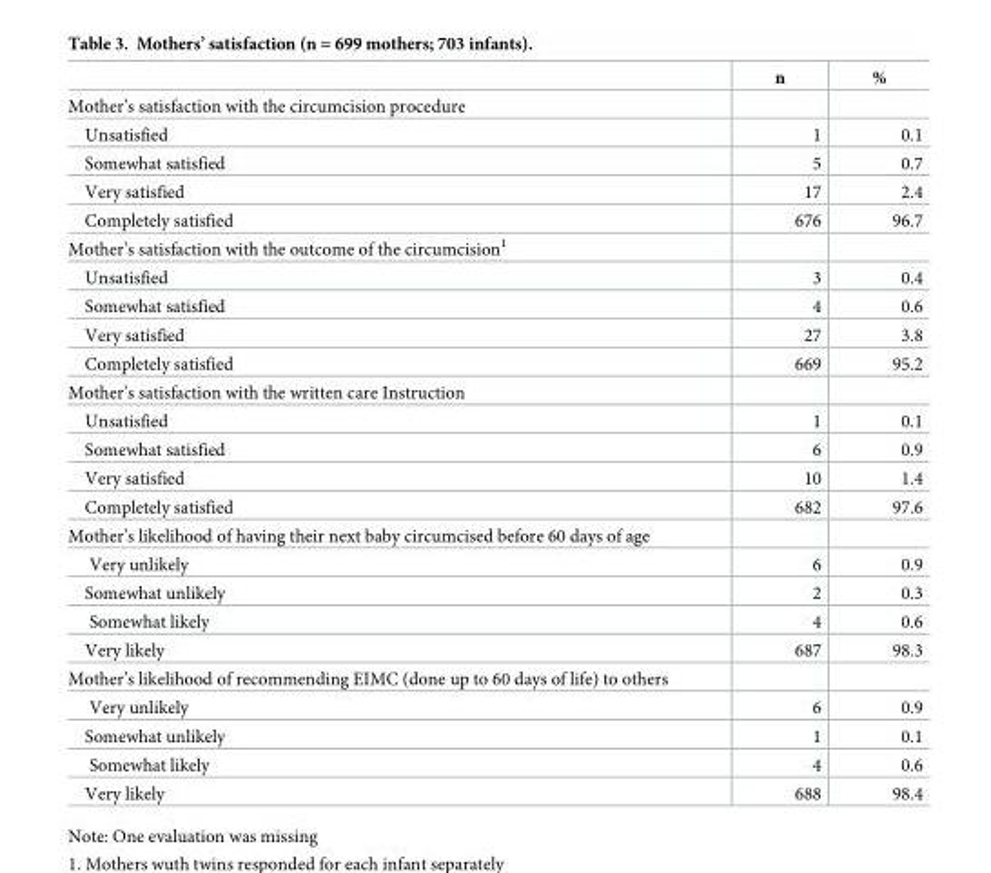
<table><thead><tr><td></td><td>n</td><td>%</td></tr></thead><tbody><tr><td colspan="3">Mother’s satisfaction with the circumcision procedure</td></tr><tr><td>Unsatisfied</td><td>1</td><td>0.1</td></tr><tr><td>Somewhat satisfied</td><td>5</td><td>0.7</td></tr><tr><td>Very satisfied</td><td>17</td><td>2.4</td></tr><tr><td>Completely satisfied</td><td>676</td><td>96.7</td></tr><tr><td colspan="3">Mother’s satisfaction with the outcome of the circumcision<sup>1</sup></td></tr><tr><td>Unsatisfied</td><td>3</td><td>0.4</td></tr><tr><td>Somewhat satisfied</td><td>4</td><td>0.6</td></tr><tr><td>Very satisfied</td><td>27</td><td>3.8</td></tr><tr><td>Completely satisfied</td><td>669</td><td>95.2</td></tr><tr><td colspan="3">Mother’s satisfaction with the written care Instruction</td></tr><tr><td>Unsatisfied</td><td>1</td><td>0.1</td></tr><tr><td>Somewhat satisfied</td><td>6</td><td>0.9</td></tr><tr><td>Very satisfied</td><td>10</td><td>1.4</td></tr><tr><td>Completely satisfied</td><td>682</td><td>97.6</td></tr><tr><td colspan="3">Mother’s likelihood of having their next baby circumcised before 60 days of age</td></tr><tr><td>Very unlikely</td><td>6</td><td>0.9</td></tr><tr><td>Somewhat unlikely</td><td>2</td><td>0.3</td></tr><tr><td>Somewhat likely</td><td>4</td><td>0.6</td></tr><tr><td>Very likely</td><td>687</td><td>98.3</td></tr><tr><td colspan="3">Mother’s likelihood of recommending EIMC (done up to 60 days of life) to others</td></tr><tr><td>Very unlikely</td><td>6</td><td>0.9</td></tr><tr><td>Somewhat unlikely</td><td>1</td><td>0.1</td></tr><tr><td>Somewhat likely</td><td>4</td><td>0.6</td></tr><tr><td>Very likely</td><td>688</td><td>98.4</td></tr></tbody></table>